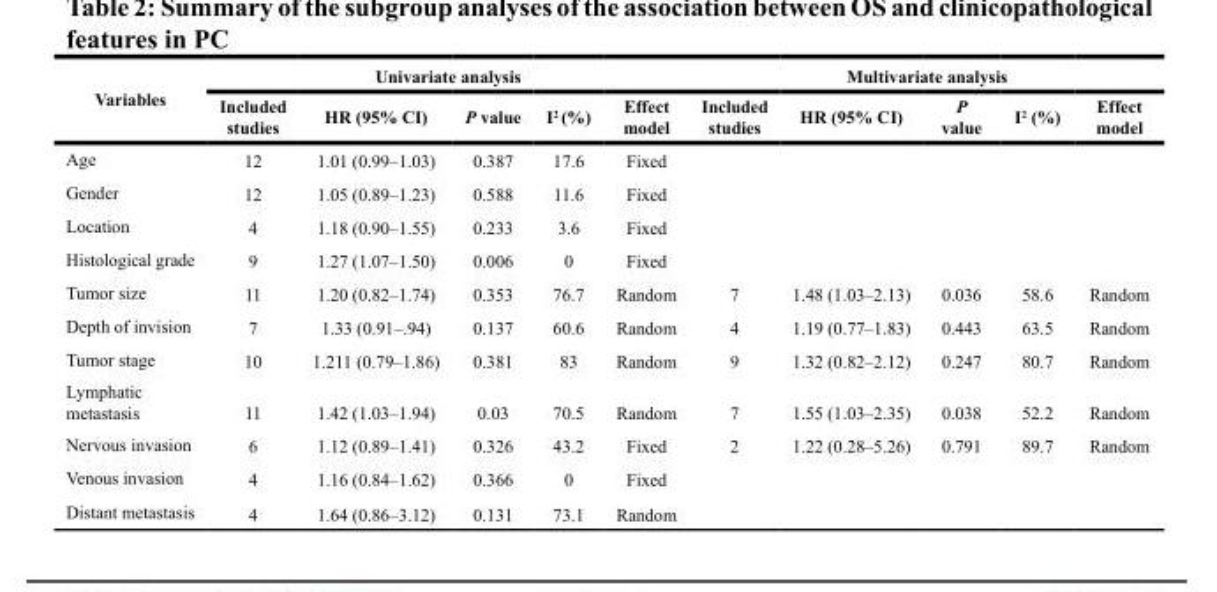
<table><thead><tr><td rowspan="2">Variables</td><td colspan="5">Univariate analysis</td><td colspan="5">Multivariate analysis</td></tr><tr><td>Included studies</td><td>HR (95% CI)</td><td>P value</td><td>I<sup>2</sup> (%)</td><td>Effect model</td><td>Included studies</td><td>HR (95% CI)</td><td>P value</td><td>I<sup>2</sup> (%)</td><td>Effect model</td></tr></thead><tbody><tr><td>Age</td><td>12</td><td>1.01 (0.99–1.03)</td><td>0.387</td><td>17.6</td><td>Fixed</td><td></td><td></td><td></td><td></td><td></td></tr><tr><td>Gender</td><td>12</td><td>1.05 (0.89–1.23)</td><td>0.588</td><td>11.6</td><td>Fixed</td><td></td><td></td><td></td><td></td><td></td></tr><tr><td>Location</td><td>4</td><td>1.18 (0.90–1.55)</td><td>0.233</td><td>3.6</td><td>Fixed</td><td></td><td></td><td></td><td></td><td></td></tr><tr><td>Histological grade</td><td>9</td><td>1.27 (1.07–1.50)</td><td>0.006</td><td>0</td><td>Fixed</td><td></td><td></td><td></td><td></td><td></td></tr><tr><td>Tumor size</td><td>11</td><td>1.20 (0.82–1.74)</td><td>0.353</td><td>76.7</td><td>Random</td><td>7</td><td>1.48 (1.03–2.13)</td><td>0.036</td><td>58.6</td><td>Random</td></tr><tr><td>Depth of invision</td><td>7</td><td>1.33 (0.91–.94)</td><td>0.137</td><td>60.6</td><td>Random</td><td>4</td><td>1.19 (0.77–1.83)</td><td>0.443</td><td>63.5</td><td>Random</td></tr><tr><td>Tumor stage</td><td>10</td><td>1.211 (0.79–1.86)</td><td>0.381</td><td>83</td><td>Random</td><td>9</td><td>1.32 (0.82–2.12)</td><td>0.247</td><td>80.7</td><td>Random</td></tr><tr><td>Lymphatic metastasis</td><td>11</td><td>1.42 (1.03–1.94)</td><td>0.03</td><td>70.5</td><td>Random</td><td>7</td><td>1.55 (1.03–2.35)</td><td>0.038</td><td>52.2</td><td>Random</td></tr><tr><td>Nervous invasion</td><td>6</td><td>1.12 (0.89–1.41)</td><td>0.326</td><td>43.2</td><td>Fixed</td><td>2</td><td>1.22 (0.28–5.26)</td><td>0.791</td><td>89.7</td><td>Random</td></tr><tr><td>Venous invasion</td><td>4</td><td>1.16 (0.84–1.62)</td><td>0.366</td><td>0</td><td>Fixed</td><td></td><td></td><td></td><td></td><td></td></tr><tr><td>Distant metastasis</td><td>4</td><td>1.64 (0.86–3.12)</td><td>0.131</td><td>73.1</td><td>Random</td><td></td><td></td><td></td><td></td><td></td></tr></tbody></table>